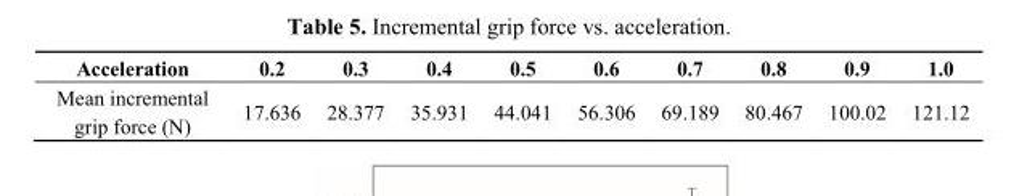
<table><thead><tr><td>Acceleration</td><td>0.2</td><td>0.3</td><td>0.4</td><td>0.5</td><td>0.6</td><td>0.7</td><td>0.8</td><td>0.9</td><td>1.0</td></tr></thead><tbody><tr><td>Mean incremental grip force (N)</td><td>17.636</td><td>28.377</td><td>35.931</td><td>44.041</td><td>56.306</td><td>69.189</td><td>80.467</td><td>100.02</td><td>121.12</td></tr></tbody></table>